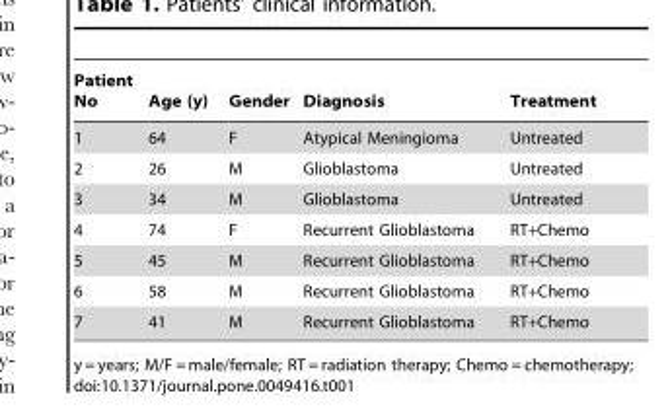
<table><thead><tr><td>Patient No</td><td>Age (y)</td><td>Gender</td><td>Diagnosis</td><td>Treatment</td></tr></thead><tbody><tr><td>1</td><td>64</td><td>F</td><td>Atypical Meningioma</td><td>Untreated</td></tr><tr><td>2</td><td>26</td><td>M</td><td>Glioblastoma</td><td>Untreated</td></tr><tr><td>3</td><td>34</td><td>M</td><td>Glioblastoma</td><td>Untreated</td></tr><tr><td>4</td><td>74</td><td>F</td><td>Recurrent Glioblastoma</td><td>RT+Chemo</td></tr><tr><td>5</td><td>45</td><td>M</td><td>Recurrent Glioblastoma</td><td>RT+Chemo</td></tr><tr><td>6</td><td>58</td><td>M</td><td>Recurrent Glioblastoma</td><td>RT+Chemo</td></tr><tr><td>7</td><td>41</td><td>M</td><td>Recurrent Glioblastoma</td><td>RT+Chemo</td></tr></tbody></table>